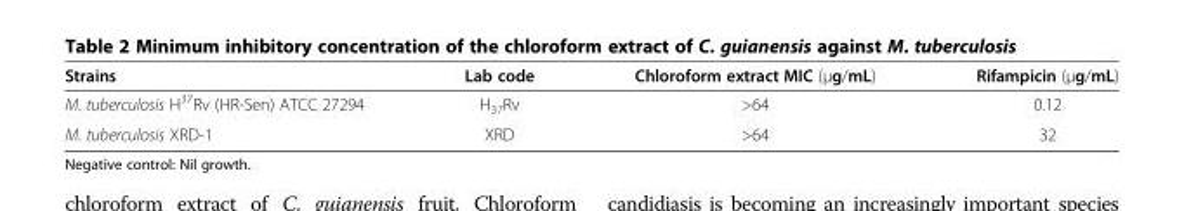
<table><thead><tr><td>Strains</td><td>Lab code</td><td>Chloroform extract MIC (μg/mL)</td><td>Rifampicin (μg/mL)</td></tr></thead><tbody><tr><td>M. tuberculosis H<sup>37</sup>Rv (HR-Sen) ATCC 27294</td><td>H<sub>37</sub>Rv</td><td>&gt;64</td><td>0.12</td></tr><tr><td>M. tuberculosis XRD-1</td><td>XRD</td><td>&gt;64</td><td>32</td></tr></tbody></table>